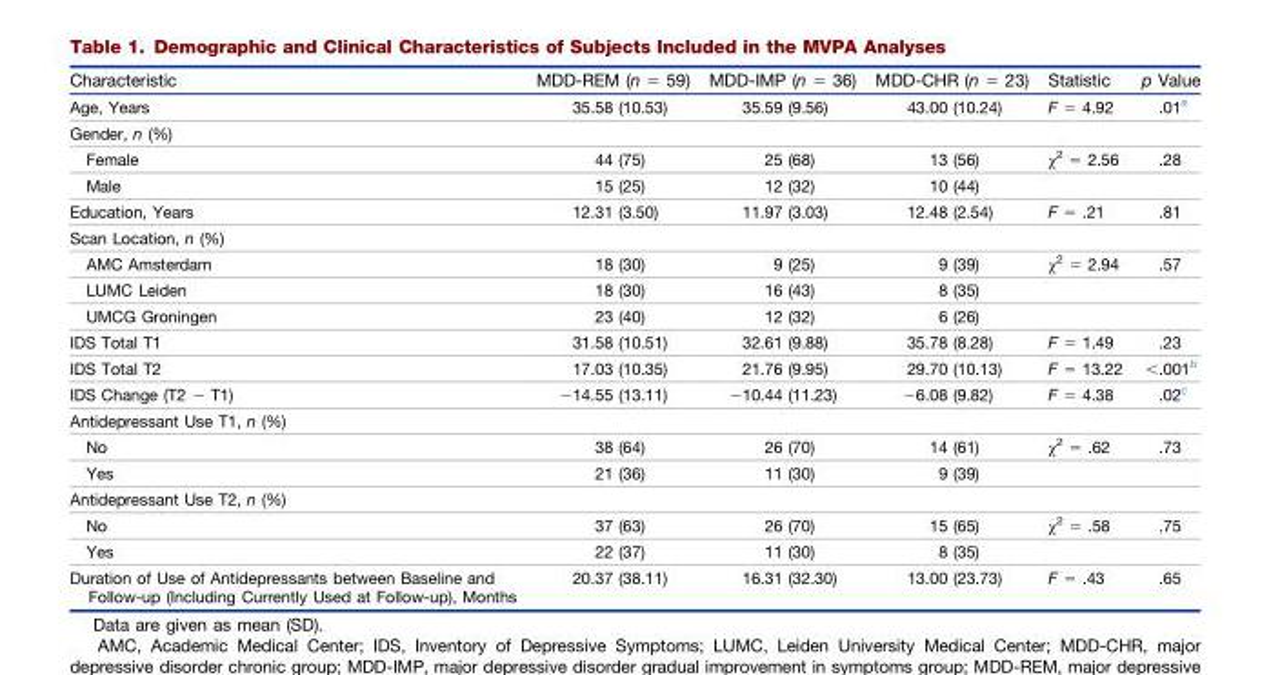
<table><thead><tr><td>Characteristic</td><td>MDD-REM (n = 59)</td><td>MDD-IMP (n = 36)</td><td>MDD-CHR (n = 23)</td><td>Statistic</td><td>p Value</td></tr></thead><tbody><tr><td>Age, Years</td><td>35.58 (10.53)</td><td>35.59 (9.56)</td><td>43.00 (10.24)</td><td>F = 4.92</td><td>.01<sup>a</sup></td></tr><tr><td colspan="6">Gender, n (%)</td></tr><tr><td>Female</td><td>44 (75)</td><td>25 (68)</td><td>13 (56)</td><td>χ<sup>2</sup> = 2.56</td><td>.28</td></tr><tr><td>Male</td><td>15 (25)</td><td>12 (32)</td><td>10 (44)</td><td></td><td></td></tr><tr><td>Education, Years</td><td>12.31 (3.50)</td><td>11.97 (3.03)</td><td>12.48 (2.54)</td><td>F = .21</td><td>.81</td></tr><tr><td colspan="6">Scan Location, n (%)</td></tr><tr><td>AMC Amsterdam</td><td>18 (30)</td><td>9 (25)</td><td>9 (39)</td><td>χ<sup>2</sup> = 2.94</td><td>.57</td></tr><tr><td>LUMC Leiden</td><td>18 (30)</td><td>16 (43)</td><td>8 (35)</td><td></td><td></td></tr><tr><td>UMCG Groningen</td><td>23 (40)</td><td>12 (32)</td><td>6 (26)</td><td></td><td></td></tr><tr><td>IDS Total T1</td><td>31.58 (10.51)</td><td>32.61 (9.88)</td><td>35.78 (8.28)</td><td>F = 1.49</td><td>.23</td></tr><tr><td>IDS Total T2</td><td>17.03 (10.35)</td><td>21.76 (9.95)</td><td>29.70 (10.13)</td><td>F = 13.22</td><td>&lt;.001<sup>b</sup></td></tr><tr><td>IDS Change (T2 − T1)</td><td>−14.55 (13.11)</td><td>−10.44 (11.23)</td><td>−6.08 (9.82)</td><td>F = 4.38</td><td>.02<sup>c</sup></td></tr><tr><td colspan="6">Antidepressant Use T1, n (%)</td></tr><tr><td>No</td><td>38 (64)</td><td>26 (70)</td><td>14 (61)</td><td>χ<sup>2</sup> = .62</td><td>.73</td></tr><tr><td>Yes</td><td>21 (36)</td><td>11 (30)</td><td>9 (39)</td><td></td><td></td></tr><tr><td colspan="6">Antidepressant Use T2, n (%)</td></tr><tr><td>No</td><td>37 (63)</td><td>26 (70)</td><td>15 (65)</td><td>χ<sup>2</sup> = .58</td><td>.75</td></tr><tr><td>Yes</td><td>22 (37)</td><td>11 (30)</td><td>8 (35)</td><td></td><td></td></tr><tr><td>Duration of Use of Antidepressants between Baseline and Follow-up (Including Currently Used at Follow-up), Months</td><td>20.37 (38.11)</td><td>16.31 (32.30)</td><td>13.00 (23.73)</td><td>F = .43</td><td>.65</td></tr></tbody></table>